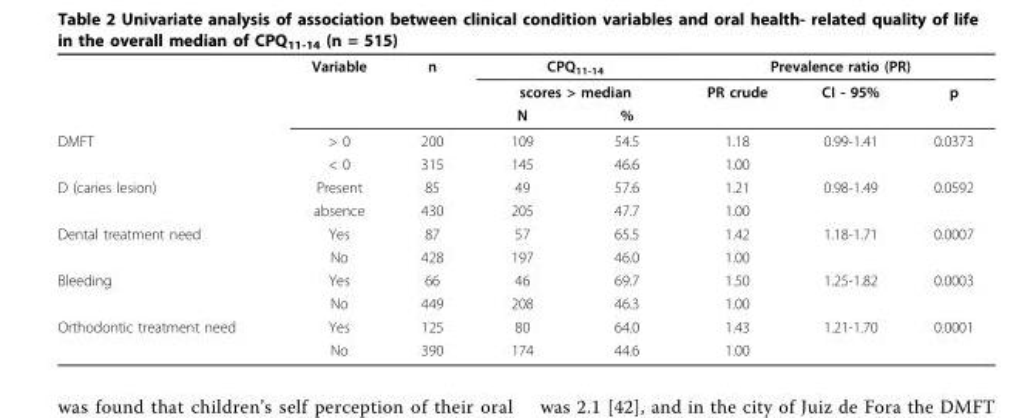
<table><thead><tr><td rowspan="3"></td><td rowspan="3">Variable</td><td rowspan="3">n</td><td rowspan="2" colspan="2">CPQ<sub>11-14</sub> scores &gt; median</td><td colspan="3">Prevalence ratio (PR)</td></tr><tr><td rowspan="2">PR crude</td><td rowspan="2">CI - 95%</td><td rowspan="2">p</td></tr><tr><td>N</td><td>%</td></tr></thead><tbody><tr><td rowspan="2">DMFT</td><td>&gt; 0</td><td>200</td><td>109</td><td>54.5</td><td>1.18</td><td>0.99-1.41</td><td>0.0373</td></tr><tr><td>&lt; 0</td><td>315</td><td>145</td><td>46.6</td><td>1.00</td><td></td><td></td></tr><tr><td rowspan="2">D (caries lesion)</td><td>Present</td><td>85</td><td>49</td><td>57.6</td><td>1.21</td><td>0.98-1.49</td><td>0.0592</td></tr><tr><td>absence</td><td>430</td><td>205</td><td>47.7</td><td>1.00</td><td></td><td></td></tr><tr><td rowspan="2">Dental treatment need</td><td>Yes</td><td>87</td><td>57</td><td>65.5</td><td>1.42</td><td>1.18-1.71</td><td>0.0007</td></tr><tr><td>No</td><td>428</td><td>197</td><td>46.0</td><td>1.00</td><td></td><td></td></tr><tr><td rowspan="2">Bleeding</td><td>Yes</td><td>66</td><td>46</td><td>69.7</td><td>1.50</td><td>1.25-1.82</td><td>0.0003</td></tr><tr><td>No</td><td>449</td><td>208</td><td>46.3</td><td>1.00</td><td></td><td></td></tr><tr><td rowspan="2">Orthodontic treatment need</td><td>Yes</td><td>125</td><td>80</td><td>64.0</td><td>1.43</td><td>1.21-1.70</td><td>0.0001</td></tr><tr><td>No</td><td>390</td><td>174</td><td>44.6</td><td>1.00</td><td></td><td></td></tr></tbody></table>